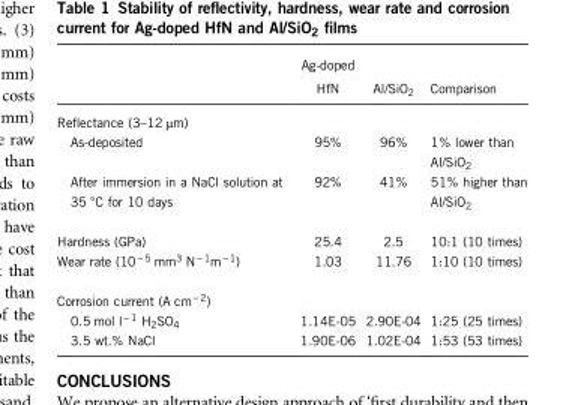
<table><thead><tr><td></td><td>Ag-doped HfN</td><td>Al/SiO<sub>2</sub></td><td>Comparison</td></tr></thead><tbody><tr><td colspan="4">Reflectance (3–12 μm)</td></tr><tr><td>As-deposited</td><td>95%</td><td>96%</td><td>1% lower than Al/SiO<sub>2</sub></td></tr><tr><td>After immersion in a NaCl solution at 35 °C for 10 days</td><td>92%</td><td>41%</td><td>51% higher than Al/SiO<sub>2</sub></td></tr><tr><td>Hardness (GPa)</td><td>25.4</td><td>2.5</td><td>10:1 (10 times)</td></tr><tr><td>Wear rate (10 <sup>− 5</sup> mm<sup>3</sup> N <sup>− 1</sup>m <sup>− 1</sup>)</td><td>1.03</td><td>11.76</td><td>1:10 (10 times)</td></tr><tr><td colspan="4">Corrosion current (A cm<sup>− 2</sup>)</td></tr><tr><td>0.5 mol l<sup>− 1</sup> H<sub>2</sub>SO<sub>4</sub></td><td>1.14E-05</td><td>2.90E-04</td><td>1:25 (25 times)</td></tr><tr><td>3.5 wt.% NaCl</td><td>1.90E-06</td><td>1.02E-04</td><td>1:53 (53 times)</td></tr></tbody></table>